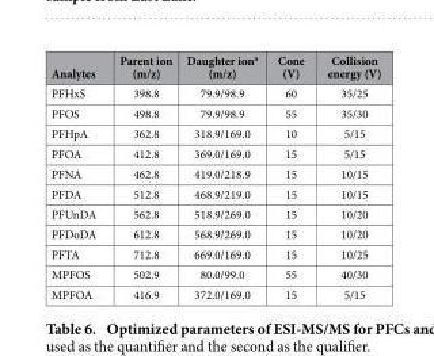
<table><thead><tr><td>Analytes</td><td>Parent ion (m/z)</td><td>Daughter ion<sup>a</sup> (m/z)</td><td>Cone (V)</td><td>Collision energy (V)</td></tr></thead><tbody><tr><td>PFHxS</td><td>398.8</td><td>79.9/98.9</td><td>60</td><td>35/25</td></tr><tr><td>PFOS</td><td>498.8</td><td>79.9/98.9</td><td>55</td><td>35/30</td></tr><tr><td>PFHpA</td><td>362.8</td><td>318.9/169.0</td><td>10</td><td>5/15</td></tr><tr><td>PFOA</td><td>412.8</td><td>369.0/169.0</td><td>15</td><td>5/15</td></tr><tr><td>PFNA</td><td>462.8</td><td>419.0/218.9</td><td>15</td><td>10/15</td></tr><tr><td>PFDA</td><td>512.8</td><td>468.9/219.0</td><td>15</td><td>10/15</td></tr><tr><td>PFUnDA</td><td>562.8</td><td>518.9/269.0</td><td>15</td><td>10/20</td></tr><tr><td>PFDoDA</td><td>612.8</td><td>568.9/269.0</td><td>15</td><td>10/20</td></tr><tr><td>PFTA</td><td>712.8</td><td>669.0/169.0</td><td>15</td><td>10/25</td></tr><tr><td>MPFOS</td><td>502.9</td><td>80.0/99.0</td><td>55</td><td>40/30</td></tr><tr><td>MPFOA</td><td>416.9</td><td>372.0/169.0</td><td>15</td><td>5/15</td></tr></tbody></table>